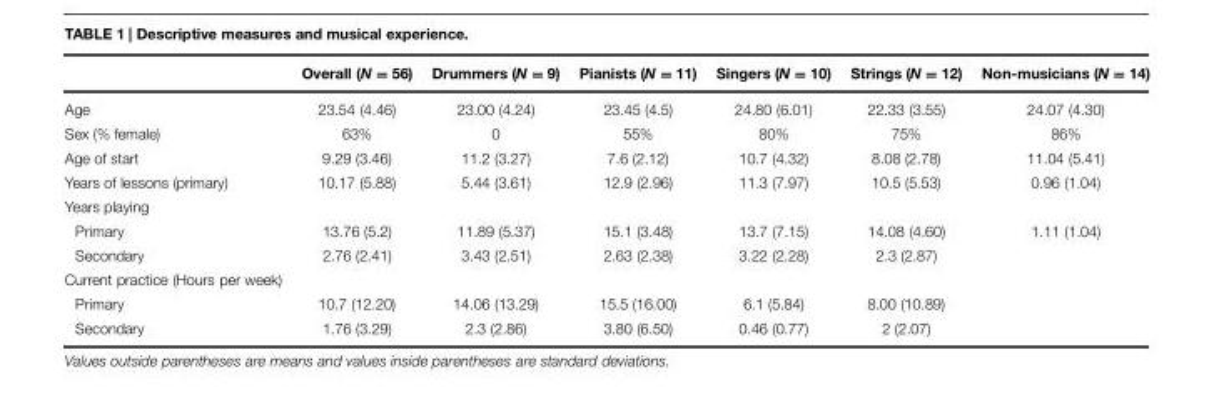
<table><thead><tr><td></td><td>Overall (N = 56)</td><td>Drummers (N = 9)</td><td>Pianists (N = 11)</td><td>Singers (N = 10)</td><td>Strings (N = 12)</td><td>Non-musicians (N = 14)</td></tr></thead><tbody><tr><td>Age</td><td>23.54 (4.46)</td><td>23.00 (4.24)</td><td>23.45 (4.5)</td><td>24.80 (6.01)</td><td>22.33 (3.55)</td><td>24.07 (4.30)</td></tr><tr><td>Sex (% female)</td><td>63%</td><td>0</td><td>55%</td><td>80%</td><td>75%</td><td>86%</td></tr><tr><td>Age of start</td><td>9.29 (3.46)</td><td>11.2 (3.27)</td><td>7.6 (2.12)</td><td>10.7 (4.32)</td><td>8.08 (2.78)</td><td>11.04 (5.41)</td></tr><tr><td>Years of lessons (primary)</td><td>10.17 (5.88)</td><td>5.44 (3.61)</td><td>12.9 (2.96)</td><td>11.3 (7.97)</td><td>10.5 (5.53)</td><td>0.96 (1.04)</td></tr><tr><td colspan="7">Years playing</td></tr><tr><td>Primary</td><td>13.76 (5.2)</td><td>11.89 (5.37)</td><td>15.1 (3.48)</td><td>13.7 (7.15)</td><td>14.08 (4.60)</td><td>1.11 (1.04)</td></tr><tr><td>Secondary</td><td>2.76 (2.41)</td><td>3.43 (2.51)</td><td>2.63 (2.38)</td><td>3.22 (2.28)</td><td>2.3 (2.87)</td><td></td></tr><tr><td colspan="7">Current practice (Hours per week)</td></tr><tr><td>Primary</td><td>10.7 (12.20)</td><td>14.06 (13.29)</td><td>15.5 (16.00)</td><td>6.1 (5.84)</td><td>8.00 (10.89)</td><td></td></tr><tr><td>Secondary</td><td>1.76 (3.29)</td><td>2.3 (2.86)</td><td>3.80 (6.50)</td><td>0.46 (0.77)</td><td>2 (2.07)</td><td></td></tr></tbody></table>